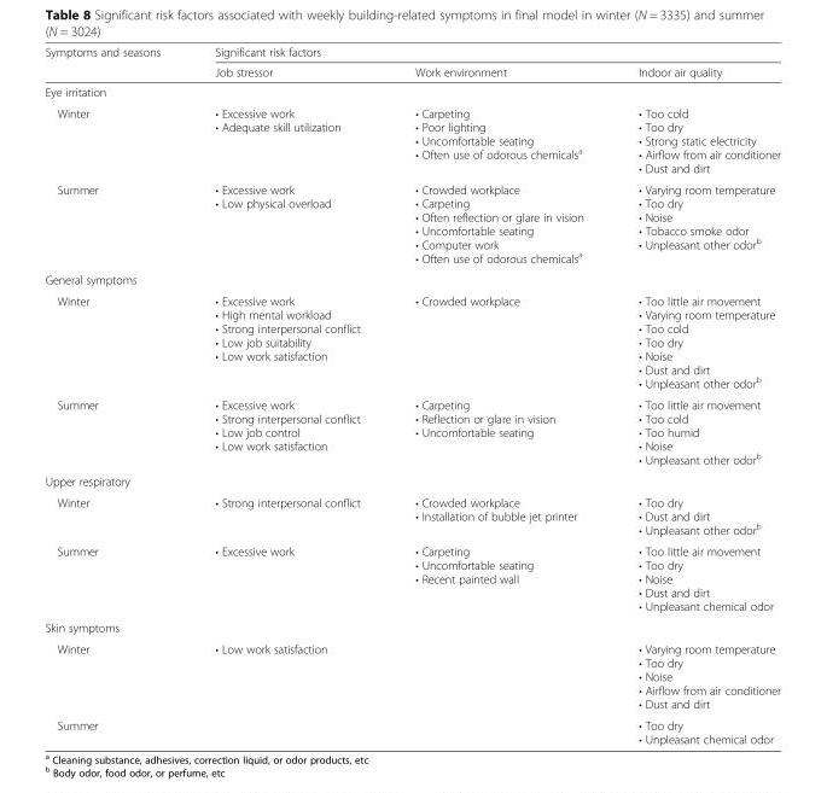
<table><thead><tr><td rowspan="2">Symptoms and seasons</td><td colspan="3">Significant risk factors</td></tr><tr><td>Job stressor</td><td>Work environment</td><td>Indoor air quality</td></tr></thead><tbody><tr><td colspan="4">Eye irritation</td></tr><tr><td>Winter</td><td>• Excessive work • Adequate skill utilization</td><td>• Carpeting • Poor lighting • Uncomfortable seating • Often use of odorous chemicals<sup>a</sup></td><td>• Too cold • Too dry • Strong static electricity • Airflow from air conditioner • Dust and dirt</td></tr><tr><td>Summer</td><td>• Excessive work • Low physical overload</td><td>• Crowded workplace • Carpeting • Often reflection or glare in vision • Uncomfortable seating • Computer work • Often use of odorous chemicals<sup>a</sup></td><td>• Varying room temperature • Too dry • Noise • Tobacco smoke odor • Unpleasant other odor<sup>b</sup></td></tr><tr><td colspan="4">General symptoms</td></tr><tr><td>Winter</td><td>• Excessive work • High mental workload • Strong interpersonal conflict • Low job suitability • Low work satisfaction</td><td>• Crowded workplace</td><td>• Too little air movement • Varying room temperature • Too cold • Too dry • Noise • Dust and dirt • Unpleasant other odor<sup>b</sup></td></tr><tr><td>Summer</td><td>• Excessive work • Strong interpersonal conflict • Low job control • Low work satisfaction</td><td>• Carpeting • Reflection or glare in vision • Uncomfortable seating</td><td>• Too little air movement • Too cold • Too humid • Noise • Unpleasant other odor<sup>b</sup></td></tr><tr><td colspan="4">Upper respiratory</td></tr><tr><td>Winter</td><td>• Strong interpersonal conflict</td><td>• Crowded workplace • Installation of bubble jet printer</td><td>• Too dry • Dust and dirt • Unpleasant other odor<sup>b</sup></td></tr><tr><td>Summer</td><td>• Excessive work</td><td>• Carpeting • Uncomfortable seating • Recent painted wall</td><td>• Too little air movement • Too dry • Noise • Dust and dirt • Unpleasant chemical odor</td></tr><tr><td colspan="4">Skin symptoms</td></tr><tr><td>Winter</td><td>• Low work satisfaction</td><td></td><td>• Varying room temperature • Too dry • Noise • Airflow from air conditioner • Dust and dirt</td></tr><tr><td>Summer</td><td></td><td></td><td>• Too dry • Unpleasant chemical odor</td></tr></tbody></table>